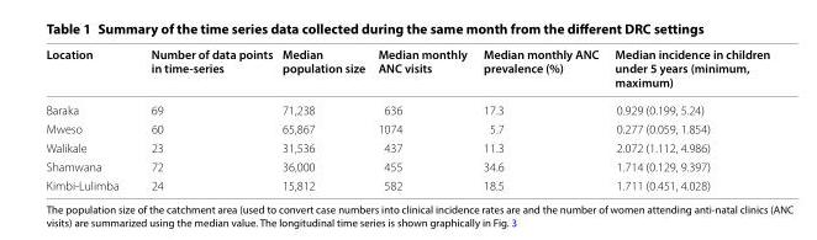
<table><thead><tr><td>Location</td><td>Number of data points in time-series</td><td>Median population size</td><td>Median monthly ANC visits</td><td>Median monthly ANC prevalence (%)</td><td>Median incidence in children under 5 years (minimum, maximum)</td></tr></thead><tbody><tr><td>Baraka</td><td>69</td><td>71,238</td><td>636</td><td>17.3</td><td>0.929 (0.199, 5.24)</td></tr><tr><td>Mweso</td><td>60</td><td>65,867</td><td>1074</td><td>5.7</td><td>0.277 (0.059, 1.854)</td></tr><tr><td>Walikale</td><td>23</td><td>31,536</td><td>437</td><td>11.3</td><td>2.072 (1.112, 4.986)</td></tr><tr><td>Shamwana</td><td>72</td><td>36,000</td><td>455</td><td>34.6</td><td>1.714 (0.129, 9.397)</td></tr><tr><td>Kimbi-Lulimba</td><td>24</td><td>15,812</td><td>582</td><td>18.5</td><td>1.711 (0.451, 4.028)</td></tr></tbody></table>